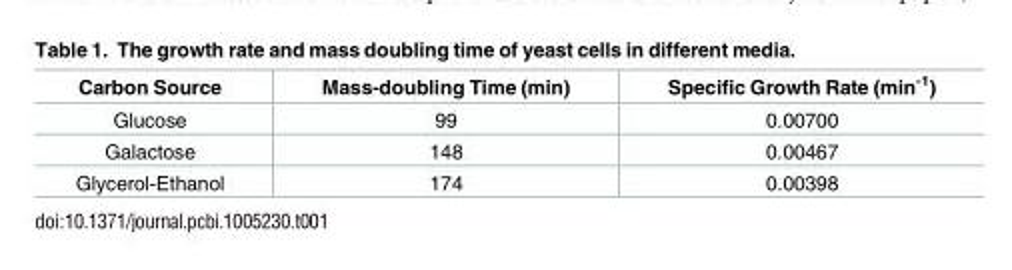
<table><thead><tr><td>Carbon Source</td><td>Mass-doubling Time (min)</td><td>Specific Growth Rate (min<sup>-1</sup>)</td></tr></thead><tbody><tr><td>Glucose</td><td>99</td><td>0.00700</td></tr><tr><td>Galactose</td><td>148</td><td>0.00467</td></tr><tr><td>Glycerol-Ethanol</td><td>174</td><td>0.00398</td></tr></tbody></table>